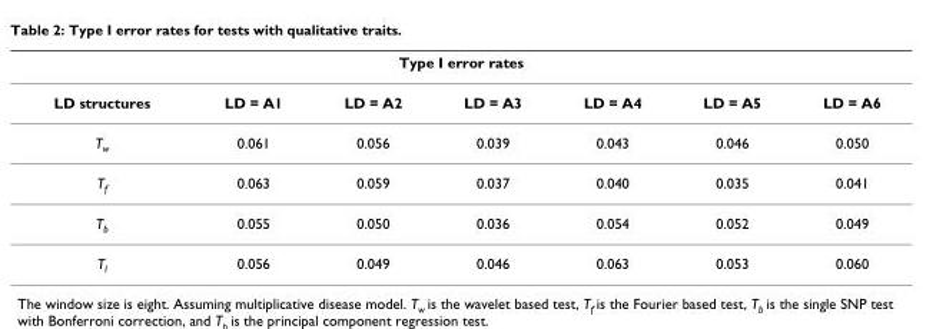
<table><thead><tr><td colspan="7">Type I error rates</td></tr><tr><td>LD structures</td><td>LD = A1</td><td>LD = A2</td><td>LD = A3</td><td>LD = A4</td><td>LD = A5</td><td>LD = A6</td></tr></thead><tbody><tr><td>T<sub>w</sub></td><td>0.061</td><td>0.056</td><td>0.039</td><td>0.043</td><td>0.046</td><td>0.050</td></tr><tr><td>T<sub>f</sub></td><td>0.063</td><td>0.059</td><td>0.037</td><td>0.040</td><td>0.035</td><td>0.041</td></tr><tr><td>T<sub>b</sub></td><td>0.055</td><td>0.050</td><td>0.036</td><td>0.054</td><td>0.052</td><td>0.049</td></tr><tr><td>T<sub>l</sub></td><td>0.056</td><td>0.049</td><td>0.046</td><td>0.063</td><td>0.053</td><td>0.060</td></tr></tbody></table>